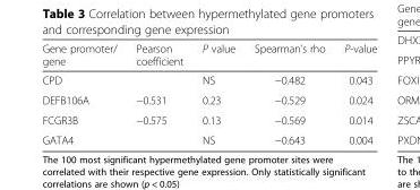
<table><thead><tr><td>Gene promoter/ gene</td><td>Pearson coefficient</td><td>P value</td><td>Spearman’s rho</td><td>P-value</td></tr></thead><tbody><tr><td>CPD</td><td></td><td>NS</td><td>−0.482</td><td>0.043</td></tr><tr><td>DEFB106A</td><td>−0.531</td><td>0.23</td><td>−0.529</td><td>0.024</td></tr><tr><td>FCGR3B</td><td>−0.575</td><td>0.13</td><td>−0.569</td><td>0.014</td></tr><tr><td>GATA4</td><td></td><td>NS</td><td>−0.643</td><td>0.004</td></tr></tbody></table>